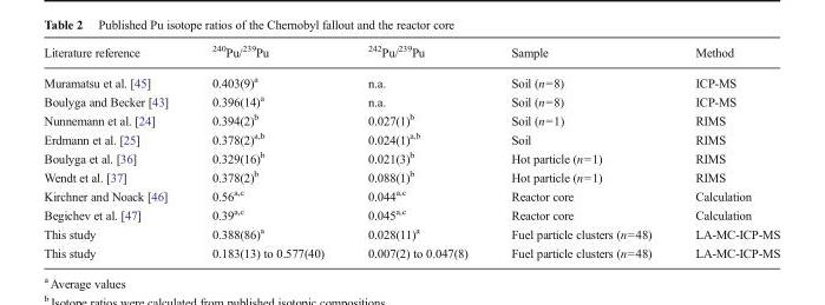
<table><thead><tr><td>Literature reference</td><td><sup>240</sup>Pu/<sup>239</sup>Pu</td><td><sup>242</sup>Pu/<sup>239</sup>Pu</td><td>Sample</td><td>Method</td></tr></thead><tbody><tr><td>Muramatsu et al. [45]</td><td>0.403(9)<sup>a</sup></td><td>n.a.</td><td>Soil (n=8)</td><td>ICP-MS</td></tr><tr><td>Boulyga and Becker [43]</td><td>0.396(14)<sup>a</sup></td><td>n.a.</td><td>Soil (n=8)</td><td>ICP-MS</td></tr><tr><td>Nunnemann et al. [24]</td><td>0.394(2)<sup>b</sup></td><td>0.027(1)<sup>b</sup></td><td>Soil (n=1)</td><td>RIMS</td></tr><tr><td>Erdmann et al. [25]</td><td>0.378(2)<sup>a,b</sup></td><td>0.024(1)<sup>a,b</sup></td><td>Soil</td><td>RIMS</td></tr><tr><td>Boulyga et al. [36]</td><td>0.329(16)<sup>b</sup></td><td>0.021(3)<sup>b</sup></td><td>Hot particle (n=1)</td><td>RIMS</td></tr><tr><td>Wendt et al. [37]</td><td>0.378(2)<sup>b</sup></td><td>0.088(1)<sup>b</sup></td><td>Hot particle (n=1)</td><td>RIMS</td></tr><tr><td>Kirchner and Noack [46]</td><td>0.56<sup>a,c</sup></td><td>0.044<sup>a,c</sup></td><td>Reactor core</td><td>Calculation</td></tr><tr><td>Begichev et al. [47]</td><td>0.39<sup>a,c</sup></td><td>0.045<sup>a,c</sup></td><td>Reactor core</td><td>Calculation</td></tr><tr><td>This study</td><td>0.388(86)<sup>a</sup></td><td>0.028(11)<sup>a</sup></td><td>Fuel particle clusters (n=48)</td><td>LA-MC-ICP-MS</td></tr><tr><td>This study</td><td>0.183(13) to 0.577(40)</td><td>0.007(2) to 0.047(8)</td><td>Fuel particle clusters (n=48)</td><td>LA-MC-ICP-MS</td></tr></tbody></table>